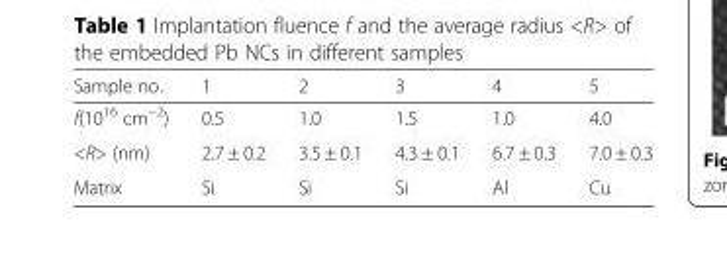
<table><thead><tr><td>Sample no.</td><td>1</td><td>2</td><td>3</td><td>4</td><td>5</td></tr></thead><tbody><tr><td>f(1016 cm−2)</td><td>0.5</td><td>1.0</td><td>1.5</td><td>1.0</td><td>4.0</td></tr><tr><td>&lt;R&gt; (nm)</td><td>2.7 ± 0.2</td><td>3.5 ± 0.1</td><td>4.3 ± 0.1</td><td>6.7 ± 0.3</td><td>7.0 ± 0.3</td></tr><tr><td>Matrix</td><td>Si</td><td>Si</td><td>Si</td><td>Al</td><td>Cu</td></tr></tbody></table>